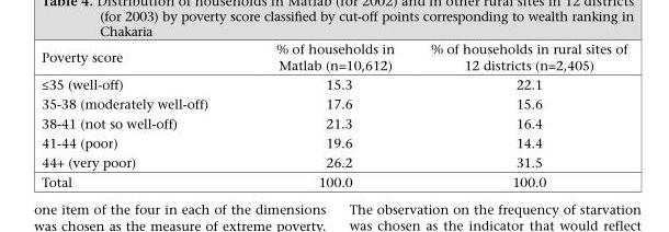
<table><thead><tr><td>Poverty score</td><td>% of households in Matlab (n=10,612)</td><td>% of households in rural sites of 12 districts (n=2,405)</td></tr></thead><tbody><tr><td>≤35 (well-off)</td><td>15.3</td><td>22.1</td></tr><tr><td>35-38 (moderately well-off)</td><td>17.6</td><td>15.6</td></tr><tr><td>38-41 (not so well-off)</td><td>21.3</td><td>16.4</td></tr><tr><td>41-44 (poor)</td><td>19.6</td><td>14.4</td></tr><tr><td>44+ (very poor)</td><td>26.2</td><td>31.5</td></tr><tr><td>Total</td><td>100.0</td><td>100.0</td></tr></tbody></table>